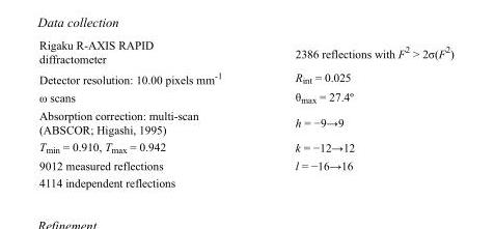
<table><tbody><tr><td>Rigaku R-AXIS RAPID diffractometer</td><td>2386 reflections with F<sup>2</sup> &gt; 2σ(F<sup>2</sup>)</td></tr><tr><td>Detector resolution: 10.00 pixels mm<sup>-1</sup></td><td>R<sub>int</sub> = 0.025</td></tr><tr><td>ω scans</td><td>θmax = 27.4º</td></tr><tr><td>Absorption correction: multi-scan (ABSCOR; Higashi, 1995)</td><td>h = −9→9</td></tr><tr><td>T<sub>min</sub> = 0.910, T<sub>max</sub> = 0.942</td><td>k = −12→12</td></tr><tr><td>9012 measured reflections</td><td>l = −16→16</td></tr><tr><td>4114 independent reflections</td><td></td></tr></tbody></table>